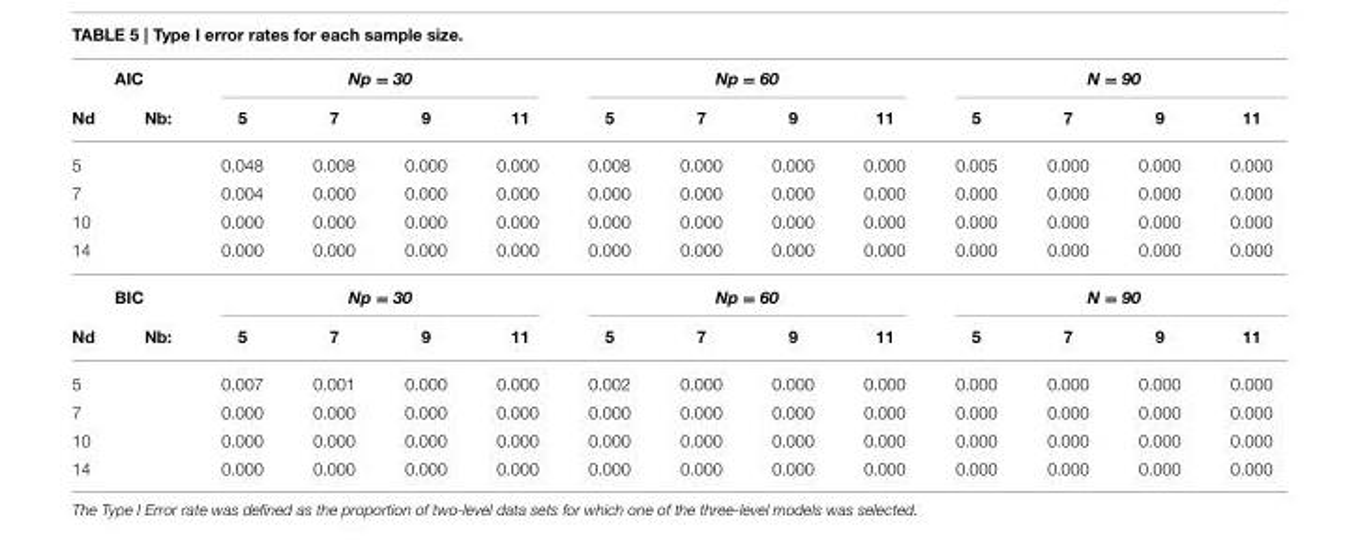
<table><thead><tr><td colspan="2">AIC</td><td colspan="4">Np = 30</td><td colspan="4">Np = 60</td><td colspan="4">N = 90</td></tr><tr><td>Nd</td><td>Nb:</td><td>5</td><td>7</td><td>9</td><td>11</td><td>5</td><td>7</td><td>9</td><td>11</td><td>5</td><td>7</td><td>9</td><td>11</td></tr></thead><tbody><tr><td>5</td><td></td><td>0.048</td><td>0.008</td><td>0.000</td><td>0.000</td><td>0.008</td><td>0.000</td><td>0.000</td><td>0.000</td><td>0.005</td><td>0.000</td><td>0.000</td><td>0.000</td></tr><tr><td>7</td><td></td><td>0.004</td><td>0.000</td><td>0.000</td><td>0.000</td><td>0.000</td><td>0.000</td><td>0.000</td><td>0.000</td><td>0.000</td><td>0.000</td><td>0.000</td><td>0.000</td></tr><tr><td>10</td><td></td><td>0.000</td><td>0.000</td><td>0.000</td><td>0.000</td><td>0.000</td><td>0.000</td><td>0.000</td><td>0.000</td><td>0.000</td><td>0.000</td><td>0.000</td><td>0.000</td></tr><tr><td>14</td><td></td><td>0.000</td><td>0.000</td><td>0.000</td><td>0.000</td><td>0.000</td><td>0.000</td><td>0.000</td><td>0.000</td><td>0.000</td><td>0.000</td><td>0.000</td><td>0.000</td></tr><tr><td colspan="2">BIC</td><td colspan="4">Np = 30</td><td colspan="4">Np = 60</td><td colspan="4">N = 90</td></tr><tr><td>Nd</td><td>Nb:</td><td>5</td><td>7</td><td>9</td><td>11</td><td>5</td><td>7</td><td>9</td><td>11</td><td>5</td><td>7</td><td>9</td><td>11</td></tr><tr><td>5</td><td></td><td>0.007</td><td>0.001</td><td>0.000</td><td>0.000</td><td>0.002</td><td>0.000</td><td>0.000</td><td>0.000</td><td>0.000</td><td>0.000</td><td>0.000</td><td>0.000</td></tr><tr><td>7</td><td></td><td>0.000</td><td>0.000</td><td>0.000</td><td>0.000</td><td>0.000</td><td>0.000</td><td>0.000</td><td>0.000</td><td>0.000</td><td>0.000</td><td>0.000</td><td>0.000</td></tr><tr><td>10</td><td></td><td>0.000</td><td>0.000</td><td>0.000</td><td>0.000</td><td>0.000</td><td>0.000</td><td>0.000</td><td>0.000</td><td>0.000</td><td>0.000</td><td>0.000</td><td>0.000</td></tr><tr><td>14</td><td></td><td>0.000</td><td>0.000</td><td>0.000</td><td>0.000</td><td>0.000</td><td>0.000</td><td>0.000</td><td>0.000</td><td>0.000</td><td>0.000</td><td>0.000</td><td>0.000</td></tr></tbody></table>